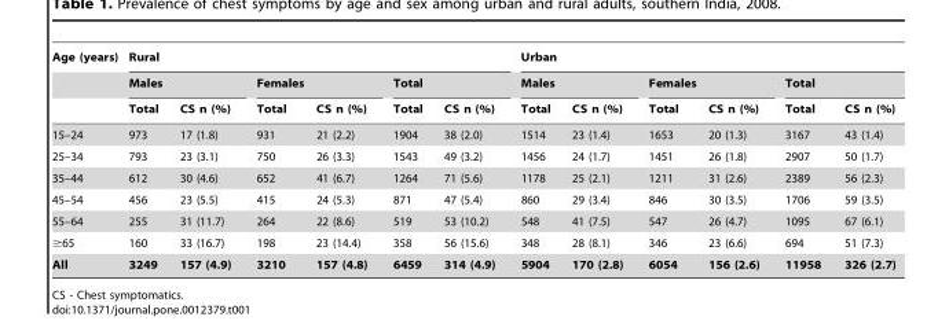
<table><thead><tr><td rowspan="3">Age (years)</td><td colspan="6">Rural</td><td colspan="6">Urban</td></tr><tr><td colspan="2">Males</td><td colspan="2">Females</td><td colspan="2">Total</td><td colspan="2">Males</td><td colspan="2">Females</td><td colspan="2">Total</td></tr><tr><td>Total</td><td>CS n (%)</td><td>Total</td><td>CS n (%)</td><td>Total</td><td>CS n (%)</td><td>Total</td><td>CS n (%)</td><td>Total</td><td>CS n (%)</td><td>Total</td><td>CS n (%)</td></tr></thead><tbody><tr><td>15–24</td><td>973</td><td>17 (1.8)</td><td>931</td><td>21 (2.2)</td><td>1904</td><td>38 (2.0)</td><td>1514</td><td>23 (1.4)</td><td>1653</td><td>20 (1.3)</td><td>3167</td><td>43 (1.4)</td></tr><tr><td>25–34</td><td>793</td><td>23 (3.1)</td><td>750</td><td>26 (3.3)</td><td>1543</td><td>49 (3.2)</td><td>1456</td><td>24 (1.7)</td><td>1451</td><td>26 (1.8)</td><td>2907</td><td>50 (1.7)</td></tr><tr><td>35–44</td><td>612</td><td>30 (4.6)</td><td>652</td><td>41 (6.7)</td><td>1264</td><td>71 (5.6)</td><td>1178</td><td>25 (2.1)</td><td>1211</td><td>31 (2.6)</td><td>2389</td><td>56 (2.3)</td></tr><tr><td>45–54</td><td>456</td><td>23 (5.5)</td><td>415</td><td>24 (5.3)</td><td>871</td><td>47 (5.4)</td><td>860</td><td>29 (3.4)</td><td>846</td><td>30 (3.5)</td><td>1706</td><td>59 (3.5)</td></tr><tr><td>55–64</td><td>255</td><td>31 (11.7)</td><td>264</td><td>22 (8.6)</td><td>519</td><td>53 (10.2)</td><td>548</td><td>41 (7.5)</td><td>547</td><td>26 (4.7)</td><td>1095</td><td>67 (6.1)</td></tr><tr><td>≥65</td><td>160</td><td>33 (16.7)</td><td>198</td><td>23 (14.4)</td><td>358</td><td>56 (15.6)</td><td>348</td><td>28 (8.1)</td><td>346</td><td>23 (6.6)</td><td>694</td><td>51 (7.3)</td></tr><tr><td>All</td><td>3249</td><td>157 (4.9)</td><td>3210</td><td>157 (4.8)</td><td>6459</td><td>314 (4.9)</td><td>5904</td><td>170 (2.8)</td><td>6054</td><td>156 (2.6)</td><td>11958</td><td>326 (2.7)</td></tr></tbody></table>